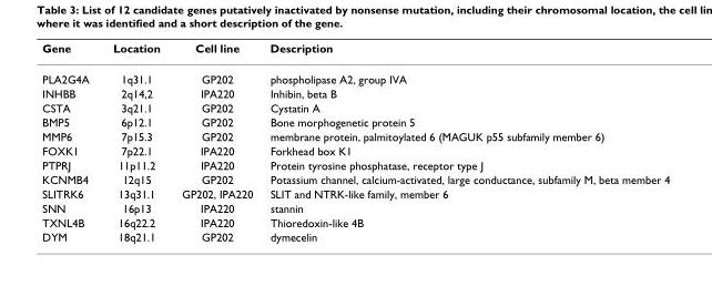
<table><thead><tr><td>Gene</td><td>Location</td><td>Cell line</td><td>Description</td></tr></thead><tbody><tr><td>PLA2G4A</td><td>1q31.1</td><td>GP202</td><td>phospholipase A2, group IVA</td></tr><tr><td>INHBB</td><td>2q14,2</td><td>IPA220</td><td>Inhibin, beta B</td></tr><tr><td>CSTA</td><td>3q21.1</td><td>GP202</td><td>Cystatin A</td></tr><tr><td>BMP5</td><td>6p12.1</td><td>GP202</td><td>Bone morphogenetic protein 5</td></tr><tr><td>MMP6</td><td>7p15.3</td><td>GP202</td><td>membrane protein, palmitoylated 6 (MAGUK p55 subfamily member 6)</td></tr><tr><td>FOXK1</td><td>7p22.1</td><td>IPA220</td><td>Forkhead box K1</td></tr><tr><td>PTPRJ</td><td>11p11.2</td><td>IPA220</td><td>Protein tyrosine phosphatase, receptor type J</td></tr><tr><td>KCNMB4</td><td>12q15</td><td>GP202</td><td>Potassium channel, calcium-activated, large conductance, subfamily M, beta member 4</td></tr><tr><td>SLITRK6</td><td>13q31.1</td><td>GP202, IPA220</td><td>SLIT and NTRK-like family, member 6</td></tr><tr><td>SNN</td><td>16p13</td><td>IPA220</td><td>stannin</td></tr><tr><td>TXNL4B</td><td>16q22.2</td><td>IPA220</td><td>Thioredoxin-like 4B</td></tr><tr><td>DYM</td><td>18q21.1</td><td>GP202</td><td>dymecelin</td></tr></tbody></table>